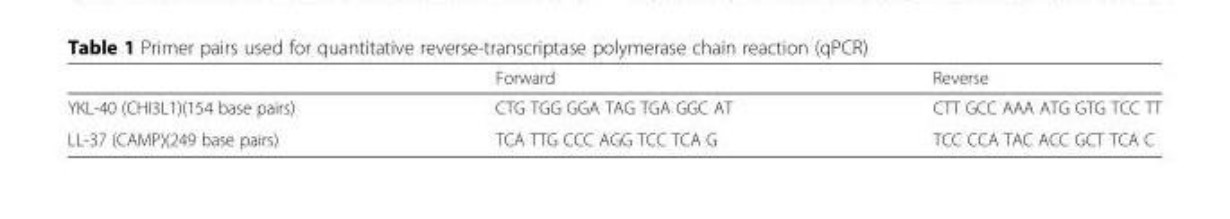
<table><thead><tr><td></td><td>Forward</td><td>Reverse</td></tr></thead><tbody><tr><td>YKL-40 (CHI3L1)(154 base pairs)</td><td>CTG TGG GGA TAG TGA GGC AT</td><td>CTT GCC AAA ATG GTG TCC TT</td></tr><tr><td>LL-37 (CAMP)(249 base pairs)</td><td>TCA TTG CCC AGG TCC TCA G</td><td>TCC CCA TAC ACC GCT TCA C</td></tr></tbody></table>